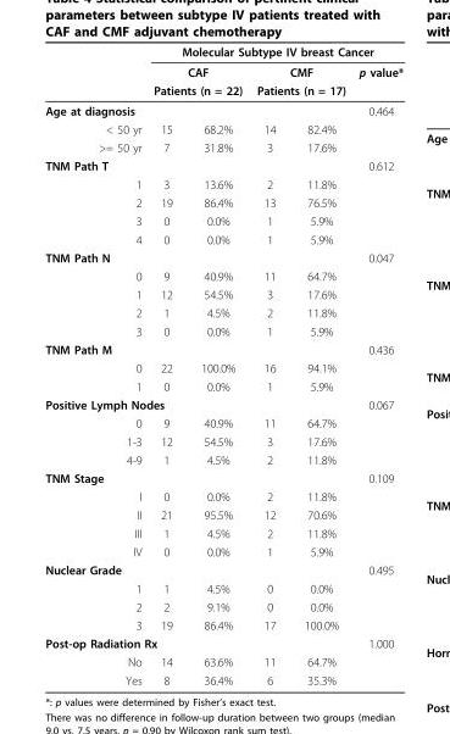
<table><thead><tr><td rowspan="4">Age at diagnosis</td><td colspan="5">Molecular Subtype IV breast Cancer</td></tr><tr><td rowspan="2" colspan="2">CAF Patients (n = 22)</td><td rowspan="2" colspan="2">CMF Patients (n = 17)</td><td rowspan="3">p value* 0.464</td></tr><tr></tr><tr><td></td><td></td><td></td><td></td></tr></thead><tbody><tr><td>&lt; 50 yr</td><td>15</td><td>68.2%</td><td>14</td><td>82.4%</td><td></td></tr><tr><td>&gt;= 50 yr</td><td>7</td><td>31.8%</td><td>3</td><td>17.6%</td><td></td></tr><tr><td>TNM Path T</td><td></td><td></td><td></td><td></td><td>0.612</td></tr><tr><td>1</td><td>3</td><td>13.6%</td><td>2</td><td>11.8%</td><td></td></tr><tr><td>2</td><td>19</td><td>86.4%</td><td>13</td><td>76.5%</td><td></td></tr><tr><td>3</td><td>0</td><td>0.0%</td><td>1</td><td>5.9%</td><td></td></tr><tr><td>4</td><td>0</td><td>0.0%</td><td>1</td><td>5.9%</td><td></td></tr><tr><td>TNM Path N</td><td></td><td></td><td></td><td></td><td>0.047</td></tr><tr><td>0</td><td>9</td><td>40.9%</td><td>11</td><td>64.7%</td><td></td></tr><tr><td>1</td><td>12</td><td>54.5%</td><td>3</td><td>17.6%</td><td></td></tr><tr><td>2</td><td>1</td><td>4.5%</td><td>2</td><td>11.8%</td><td></td></tr><tr><td>3</td><td>0</td><td>0.0%</td><td>1</td><td>5.9%</td><td></td></tr><tr><td>TNM Path M</td><td></td><td></td><td></td><td></td><td>0.436</td></tr><tr><td>0</td><td>22</td><td>100.0%</td><td>16</td><td>94.1%</td><td></td></tr><tr><td>1</td><td>0</td><td>0.0%</td><td>1</td><td>5.9%</td><td></td></tr><tr><td colspan="2">Positive Lymph Nodes</td><td></td><td></td><td></td><td>0.067</td></tr><tr><td>0</td><td>9</td><td>40.9%</td><td>11</td><td>64.7%</td><td></td></tr><tr><td>1-3</td><td>12</td><td>54.5%</td><td>3</td><td>17.6%</td><td></td></tr><tr><td>4-9</td><td>1</td><td>4.5%</td><td>2</td><td>11.8%</td><td></td></tr><tr><td>TNM Stage</td><td></td><td></td><td></td><td></td><td>0.109</td></tr><tr><td>I</td><td>0</td><td>0.0%</td><td>2</td><td>11.8%</td><td></td></tr><tr><td>II</td><td>21</td><td>95.5%</td><td>12</td><td>70.6%</td><td></td></tr><tr><td>III</td><td>1</td><td>4.5%</td><td>2</td><td>11.8%</td><td></td></tr><tr><td>IV</td><td>0</td><td>0.0%</td><td>1</td><td>5.9%</td><td></td></tr><tr><td>Nuclear Grade</td><td></td><td></td><td></td><td></td><td>0.495</td></tr><tr><td>1</td><td>1</td><td>4.5%</td><td>0</td><td>0.0%</td><td></td></tr><tr><td>2</td><td>2</td><td>9.1%</td><td>0</td><td>0.0%</td><td></td></tr><tr><td>3</td><td>19</td><td>86.4%</td><td>17</td><td>100.0%</td><td></td></tr><tr><td colspan="2">Post-op Radiation Rx</td><td></td><td></td><td></td><td>1.000</td></tr><tr><td>No</td><td>14</td><td>63.6%</td><td>11</td><td>64.7%</td><td></td></tr><tr><td>Yes</td><td>8</td><td>36.4%</td><td>6</td><td>35.3%</td><td></td></tr></tbody></table>